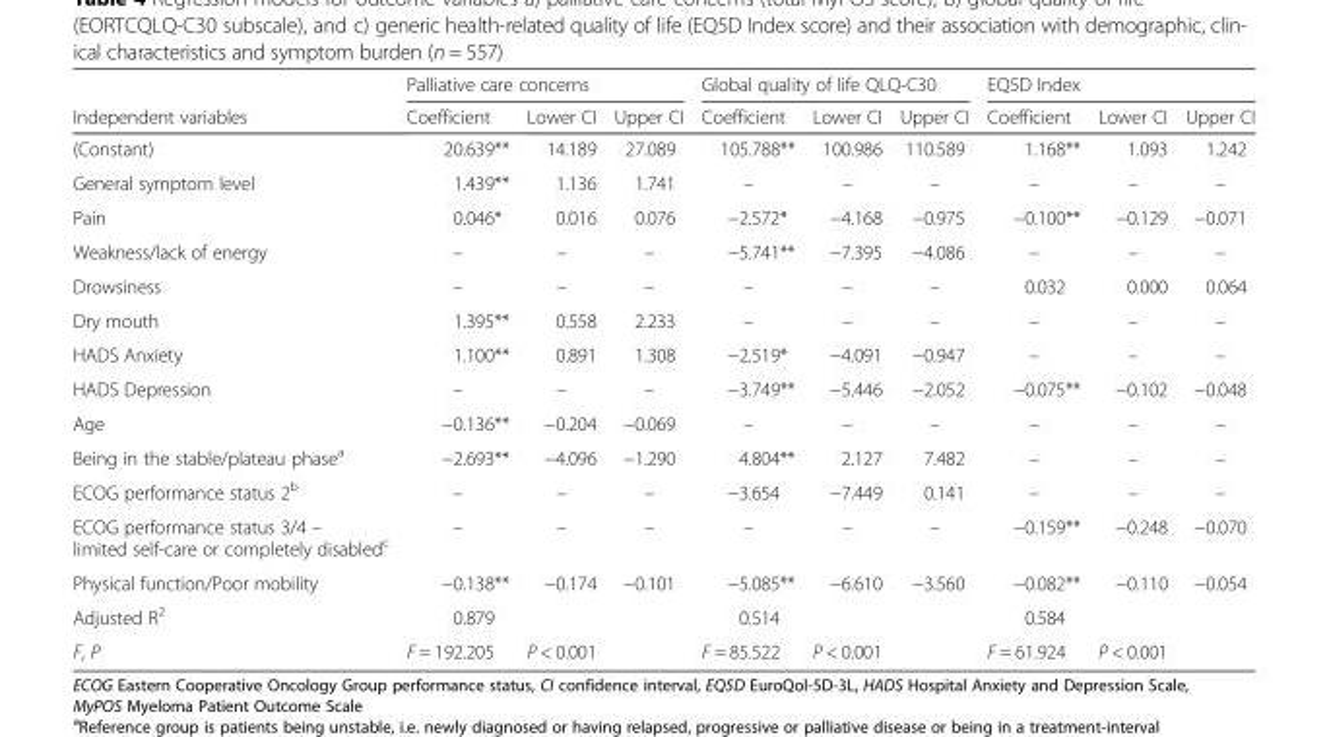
<table><thead><tr><td rowspan="2">Independent variables</td><td colspan="3">Palliative care concerns</td><td colspan="3">Global quality of life QLQ-C30</td><td colspan="3">EQ5D Index</td></tr><tr><td>Coefficient</td><td>Lower CI</td><td>Upper CI</td><td>Coefficient</td><td>Lower CI</td><td>Upper CI</td><td>Coefficient</td><td>Lower CI</td><td>Upper CI</td></tr></thead><tbody><tr><td>(Constant)</td><td>20.639**</td><td>14.189</td><td>27.089</td><td>105.788**</td><td>100.986</td><td>110.589</td><td>1.168**</td><td>1.093</td><td>1.242</td></tr><tr><td>General symptom level</td><td>1.439**</td><td>1.136</td><td>1.741</td><td>–</td><td>–</td><td>–</td><td>–</td><td>–</td><td>–</td></tr><tr><td>Pain</td><td>0.046*</td><td>0.016</td><td>0.076</td><td>−2.572*</td><td>−4.168</td><td>−0.975</td><td>−0.100**</td><td>−0.129</td><td>−0.071</td></tr><tr><td>Weakness/lack of energy</td><td>–</td><td>–</td><td>–</td><td>−5.741**</td><td>−7.395</td><td>−4.086</td><td>–</td><td>–</td><td>–</td></tr><tr><td>Drowsiness</td><td>–</td><td>–</td><td>–</td><td>–</td><td>–</td><td>–</td><td>0.032</td><td>0.000</td><td>0.064</td></tr><tr><td>Dry mouth</td><td>1.395**</td><td>0.558</td><td>2.233</td><td>–</td><td>–</td><td>–</td><td>–</td><td>–</td><td>–</td></tr><tr><td>HADS Anxiety</td><td>1.100**</td><td>0.891</td><td>1.308</td><td>−2.519*</td><td>−4.091</td><td>−0.947</td><td>–</td><td>–</td><td>–</td></tr><tr><td>HADS Depression</td><td>–</td><td>–</td><td>–</td><td>−3.749**</td><td>−5.446</td><td>−2.052</td><td>−0.075**</td><td>−0.102</td><td>−0.048</td></tr><tr><td>Age</td><td>−0.136**</td><td>−0.204</td><td>−0.069</td><td>–</td><td>–</td><td>–</td><td>–</td><td>–</td><td>–</td></tr><tr><td>Being in the stable/plateau phase<sup>a</sup></td><td>−2.693**</td><td>−4.096</td><td>−1.290</td><td>4.804**</td><td>2.127</td><td>7.482</td><td>–</td><td>–</td><td>–</td></tr><tr><td>ECOG performance status 2<sup>b</sup></td><td>–</td><td>–</td><td>–</td><td>−3.654</td><td>−7.449</td><td>0.141</td><td>–</td><td>–</td><td>–</td></tr><tr><td>ECOG performance status 3/4 – limited self-care or completely disabled<sup>c</sup></td><td>–</td><td>–</td><td>–</td><td>–</td><td>–</td><td>–</td><td>−0.159**</td><td>−0.248</td><td>−0.070</td></tr><tr><td>Physical function/Poor mobility</td><td>−0.138**</td><td>−0.174</td><td>−0.101</td><td>−5.085**</td><td>−6.610</td><td>−3.560</td><td>−0.082**</td><td>−0.110</td><td>−0.054</td></tr><tr><td>Adjusted R<sup>2</sup></td><td>0.879</td><td></td><td></td><td>0.514</td><td></td><td></td><td>0.584</td><td></td><td></td></tr><tr><td>F, P</td><td>F = 192.205</td><td>P &lt; 0.001</td><td></td><td>F = 85.522</td><td>P &lt; 0.001</td><td></td><td>F = 61.924</td><td>P &lt; 0.001</td><td></td></tr></tbody></table>